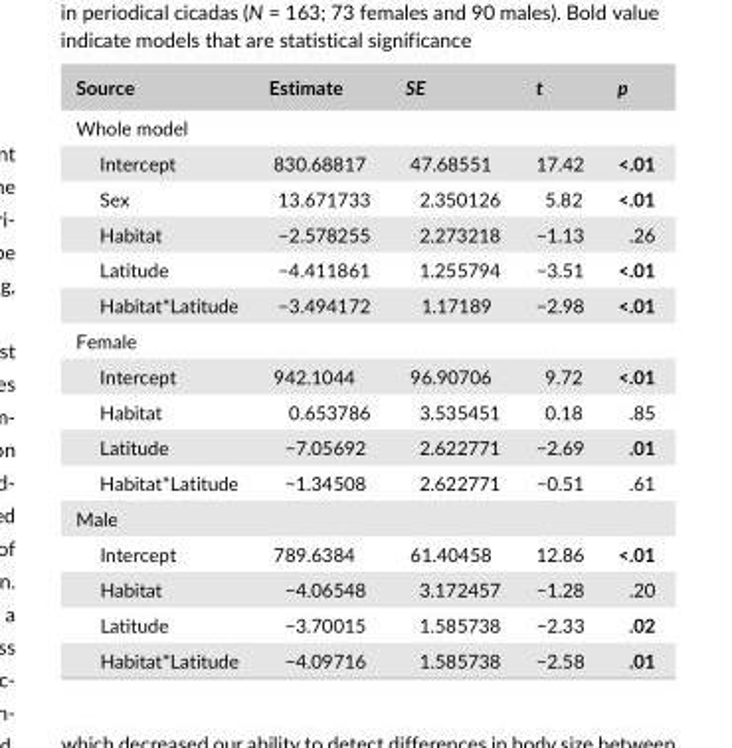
<table><thead><tr><td>Source</td><td>Estimate</td><td>SE</td><td>t</td><td>p</td></tr></thead><tbody><tr><td colspan="5">Whole model</td></tr><tr><td>Intercept</td><td>830.68817</td><td>47.68551</td><td>17.42</td><td>&lt;.01</td></tr><tr><td>Sex</td><td>13.671733</td><td>2.350126</td><td>5.82</td><td>&lt;.01</td></tr><tr><td>Habitat</td><td>−2.578255</td><td>2.273218</td><td>−1.13</td><td>.26</td></tr><tr><td>Latitude</td><td>−4.411861</td><td>1.255794</td><td>−3.51</td><td>&lt;.01</td></tr><tr><td>Habitat*Latitude</td><td>−3.494172</td><td>1.17189</td><td>−2.98</td><td>&lt;.01</td></tr><tr><td colspan="5">Female</td></tr><tr><td>Intercept</td><td>942.1044</td><td>96.90706</td><td>9.72</td><td>&lt;.01</td></tr><tr><td>Habitat</td><td>0.653786</td><td>3.535451</td><td>0.18</td><td>.85</td></tr><tr><td>Latitude</td><td>−7.05692</td><td>2.622771</td><td>−2.69</td><td>.01</td></tr><tr><td>Habitat*Latitude</td><td>−1.34508</td><td>2.622771</td><td>−0.51</td><td>.61</td></tr><tr><td colspan="5">Male</td></tr><tr><td>Intercept</td><td>789.6384</td><td>61.40458</td><td>12.86</td><td>&lt;.01</td></tr><tr><td>Habitat</td><td>−4.06548</td><td>3.172457</td><td>−1.28</td><td>.20</td></tr><tr><td>Latitude</td><td>−3.70015</td><td>1.585738</td><td>−2.33</td><td>.02</td></tr><tr><td>Habitat*Latitude</td><td>−4.09716</td><td>1.585738</td><td>−2.58</td><td>.01</td></tr></tbody></table>